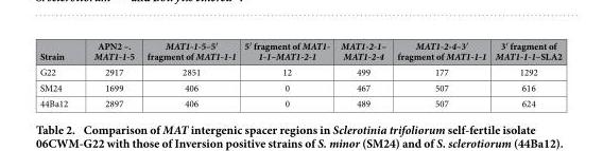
<table><thead><tr><td>Strain</td><td>APN2 –. MAT1-1-5</td><td>MAT1-1-5–5′ fragment of MAT1-1-1</td><td>5′ fragment of MAT1- 1-1–MAT1-2-1</td><td>MAT1-2-1– MAT1-2-4</td><td>MAT1-2-4–3′ fragment of MAT1-1-1</td><td>3′ fragment of MAT1-1-1–SLA2</td></tr></thead><tbody><tr><td>G22</td><td>2917</td><td>2851</td><td>12</td><td>499</td><td>177</td><td>1292</td></tr><tr><td>SM24</td><td>1699</td><td>406</td><td>0</td><td>467</td><td>507</td><td>616</td></tr><tr><td>44Ba12</td><td>2897</td><td>406</td><td>0</td><td>489</td><td>507</td><td>624</td></tr></tbody></table>